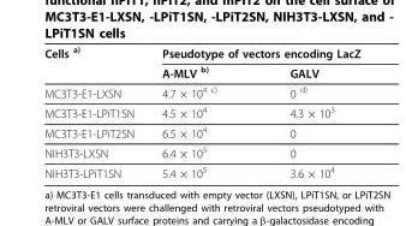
<table><thead><tr><td rowspan="2">Cells <sup>a)</sup></td><td colspan="2">Pseudotype of vectors encoding LacZ</td></tr><tr><td>A-MLV <sup>b)</sup></td><td>GALV</td></tr></thead><tbody><tr><td>MC3T3-E1-LXSN</td><td>4.7 × 10<sup>4 c)</sup></td><td>0 <sup>d)</sup></td></tr><tr><td>MC3T3-E1-LPiT1SN</td><td>4.5 × 10<sup>4</sup></td><td>4.3 × 10<sup>3</sup></td></tr><tr><td>MC3T3-E1-LPiT2SN</td><td>6.5 × 10<sup>4</sup></td><td>0</td></tr><tr><td>NIH3T3-LXSN</td><td>6.4 × 10<sup>5</sup></td><td>0</td></tr><tr><td>NIH3T3-LPiT1SN</td><td>5.4 × 10<sup>5</sup></td><td>3.6 × 10<sup>4</sup></td></tr></tbody></table>